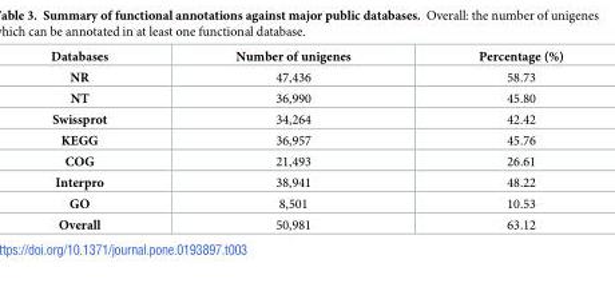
<table><thead><tr><td>Databases</td><td>Number of unigenes</td><td>Percentage (%)</td></tr></thead><tbody><tr><td>NR</td><td>47,436</td><td>58.73</td></tr><tr><td>NT</td><td>36,990</td><td>45.80</td></tr><tr><td>Swissprot</td><td>34,264</td><td>42.42</td></tr><tr><td>KEGG</td><td>36,957</td><td>45.76</td></tr><tr><td>COG</td><td>21,493</td><td>26.61</td></tr><tr><td>Interpro</td><td>38,941</td><td>48.22</td></tr><tr><td>GO</td><td>8,501</td><td>10.53</td></tr><tr><td>Overall</td><td>50,981</td><td>63.12</td></tr></tbody></table>